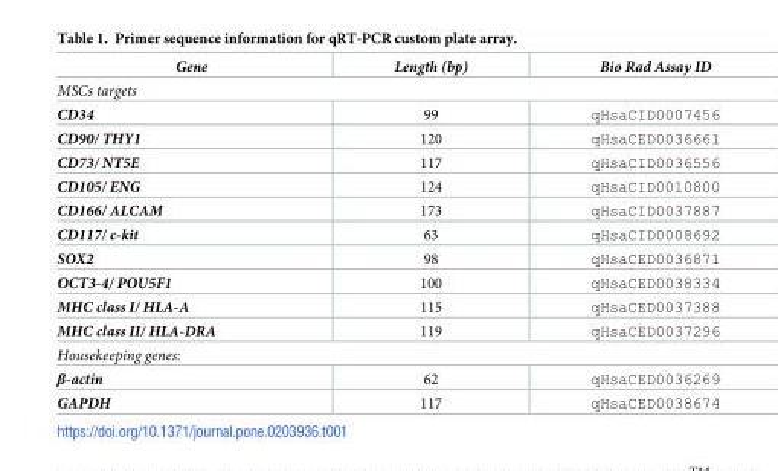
<table><thead><tr><td>Gene</td><td>Length (bp)</td><td>Bio Rad Assay ID</td></tr></thead><tbody><tr><td colspan="3">MSCs targets</td></tr><tr><td>CD34</td><td>99</td><td>qHsaCID0007456</td></tr><tr><td>CD90/ THY1</td><td>120</td><td>qHsaCED0036661</td></tr><tr><td>CD73/ NT5E</td><td>117</td><td>qHsaCID0036556</td></tr><tr><td>CD105/ ENG</td><td>124</td><td>qHsaCID0010800</td></tr><tr><td>CD166/ ALCAM</td><td>173</td><td>qHsaCID0037887</td></tr><tr><td>CD117/ c-kit</td><td>63</td><td>qHsaCID0008692</td></tr><tr><td>SOX2</td><td>98</td><td>qHsaCED0036871</td></tr><tr><td>OCT3-4/ POU5F1</td><td>100</td><td>qHsaCED0038334</td></tr><tr><td>MHC class I/ HLA-A</td><td>115</td><td>qHsaCED0037388</td></tr><tr><td>MHC class II/ HLA-DRA</td><td>119</td><td>qHsaCED0037296</td></tr><tr><td colspan="3">Housekeeping genes:</td></tr><tr><td>β-actin</td><td>62</td><td>qHsaCED0036269</td></tr><tr><td>GAPDH</td><td>117</td><td>qHsaCED0038674</td></tr></tbody></table>